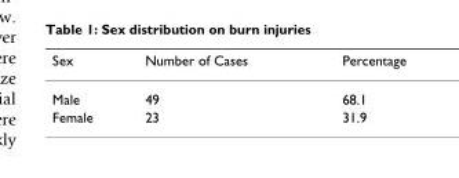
<table><thead><tr><td>Sex</td><td>Number of Cases</td><td>Percentage</td></tr></thead><tbody><tr><td>Male</td><td>49</td><td>68.1</td></tr><tr><td>Female</td><td>23</td><td>31.9</td></tr></tbody></table>